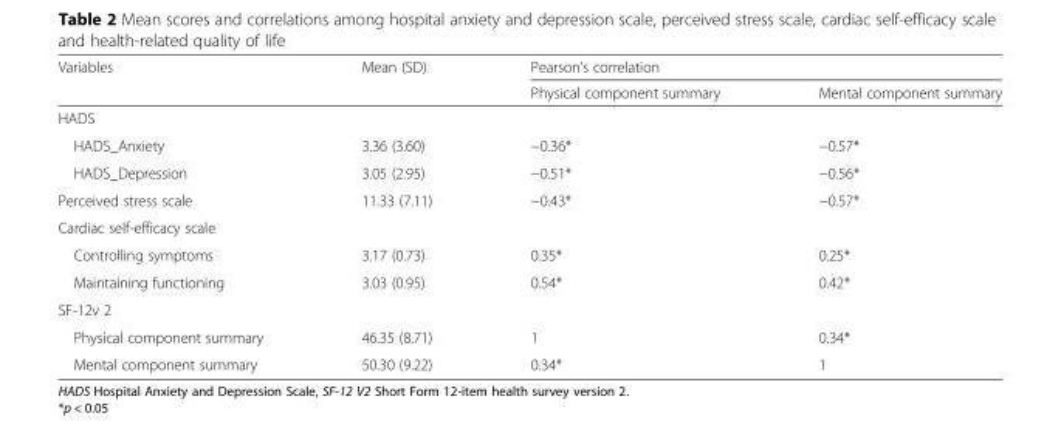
<table><thead><tr><td rowspan="2">Variables</td><td rowspan="2">Mean (SD)</td><td colspan="2">Pearson’s correlation</td></tr><tr><td>Physical component summary</td><td>Mental component summary</td></tr></thead><tbody><tr><td colspan="4">HADS</td></tr><tr><td>HADS_Anxiety</td><td>3.36 (3.60)</td><td>−0.36*</td><td>−0.57*</td></tr><tr><td>HADS_Depression</td><td>3.05 (2.95)</td><td>−0.51*</td><td>−0.56*</td></tr><tr><td>Perceived stress scale</td><td>11.33 (7.11)</td><td>−0.43*</td><td>−0.57*</td></tr><tr><td colspan="4">Cardiac self-efficacy scale</td></tr><tr><td>Controlling symptoms</td><td>3.17 (0.73)</td><td>0.35*</td><td>0.25*</td></tr><tr><td>Maintaining functioning</td><td>3.03 (0.95)</td><td>0.54*</td><td>0.42*</td></tr><tr><td colspan="4">SF-12v 2</td></tr><tr><td>Physical component summary</td><td>46.35 (8.71)</td><td>1</td><td>0.34*</td></tr><tr><td>Mental component summary</td><td>50.30 (9.22)</td><td>0.34*</td><td>1</td></tr></tbody></table>